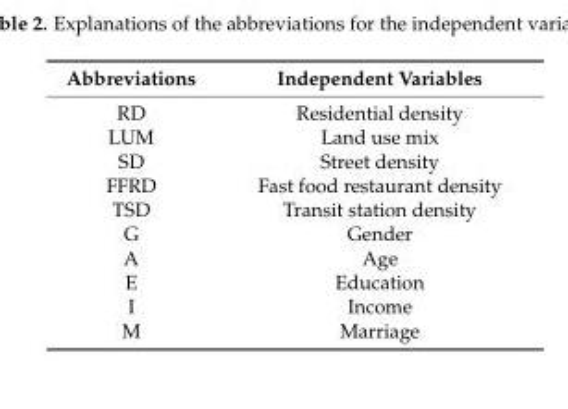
<table><thead><tr><td>Abbreviations</td><td>Independent Variables</td></tr></thead><tbody><tr><td>RD</td><td>Residential density</td></tr><tr><td>LUM</td><td>Land use mix</td></tr><tr><td>SD</td><td>Street density</td></tr><tr><td>FFRD</td><td>Fast food restaurant density</td></tr><tr><td>TSD</td><td>Transit station density</td></tr><tr><td>G</td><td>Gender</td></tr><tr><td>A</td><td>Age</td></tr><tr><td>E</td><td>Education</td></tr><tr><td>I</td><td>Income</td></tr><tr><td>M</td><td>Marriage</td></tr></tbody></table>